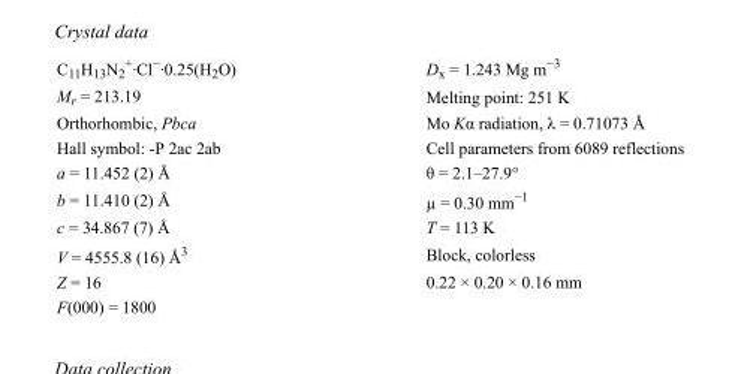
<table><tbody><tr><td>C<sub>11</sub>H<sub>13</sub>N<sub>2</sub> <sup>+</sup>·Cl<sup>−</sup>·0.25(H<sub>2</sub>O)</td><td>D<sub>x</sub> = 1.243 Mg m<sup>−3</sup></td></tr><tr><td>M<sub>r</sub> = 213.19</td><td>Melting point: 251 K</td></tr><tr><td>Orthorhombic, Pbca</td><td>Mo Kα radiation, λ = 0.71073 Å</td></tr><tr><td>Hall symbol: -P 2ac 2ab</td><td>Cell parameters from 6089 reflections</td></tr><tr><td>a = 11.452 (2) Å</td><td>θ = 2.1–27.9°</td></tr><tr><td>b = 11.410 (2) Å</td><td>µ = 0.30 mm<sup>−1</sup></td></tr><tr><td>c = 34.867 (7) Å</td><td>T = 113 K</td></tr><tr><td>V = 4555.8 (16) Å<sup>3</sup></td><td>Block, colorless</td></tr><tr><td>Z = 16</td><td>0.22 × 0.20 × 0.16 mm</td></tr><tr><td>F(000) = 1800</td><td></td></tr></tbody></table>